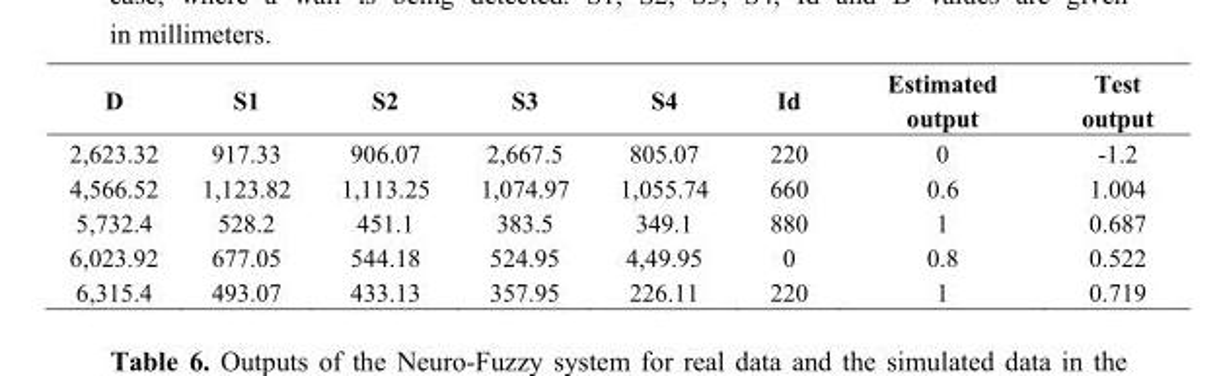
<table><thead><tr><td>D</td><td>S1</td><td>S2</td><td>S3</td><td>S4</td><td>Id</td><td>Estimated output</td><td>Test output</td></tr></thead><tbody><tr><td>2,623.32</td><td>917.33</td><td>906.07</td><td>2,667.5</td><td>805.07</td><td>220</td><td>0</td><td>-1.2</td></tr><tr><td>4,566.52</td><td>1,123.82</td><td>1,113.25</td><td>1,074.97</td><td>1,055.74</td><td>660</td><td>0.6</td><td>1.004</td></tr><tr><td>5,732.4</td><td>528.2</td><td>451.1</td><td>383.5</td><td>349.1</td><td>880</td><td>1</td><td>0.687</td></tr><tr><td>6,023.92</td><td>677.05</td><td>544.18</td><td>524.95</td><td>4,49.95</td><td>0</td><td>0.8</td><td>0.522</td></tr><tr><td>6,315.4</td><td>493.07</td><td>433.13</td><td>357.95</td><td>226.11</td><td>220</td><td>1</td><td>0.719</td></tr></tbody></table>